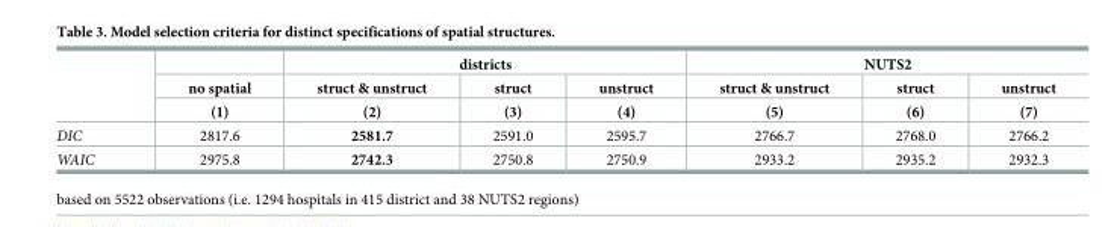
<table><thead><tr><td rowspan="3"></td><td rowspan="3">no spatial (1)</td><td colspan="3">districts</td><td colspan="3">NUTS2</td></tr><tr><td rowspan="2">struct &amp; unstruct (2)</td><td rowspan="2">struct (3)</td><td rowspan="2">unstruct (4)</td><td rowspan="2">struct &amp; unstruct (5)</td><td rowspan="2">struct (6)</td><td rowspan="2">unstruct (7)</td></tr><tr></tr></thead><tbody><tr><td>DIC</td><td>2817.6</td><td>2581.7</td><td>2591.0</td><td>2595.7</td><td>2766.7</td><td>2768.0</td><td>2766.2</td></tr><tr><td>WAIC</td><td>2975.8</td><td>2742.3</td><td>2750.8</td><td>2750.9</td><td>2933.2</td><td>2935.2</td><td>2932.3</td></tr></tbody></table>